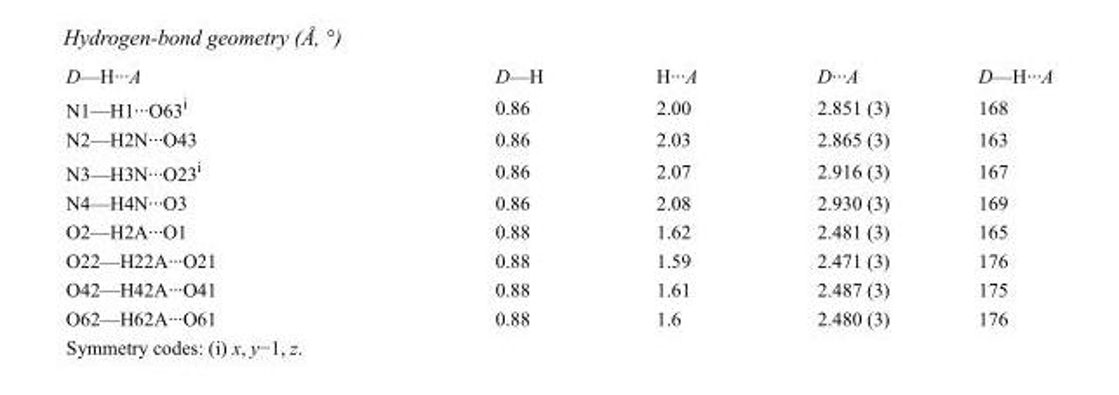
<table><tbody><tr><td>D—H···A</td><td>D—H</td><td>H···A</td><td>D···A</td><td>D—H···A</td></tr><tr><td>N1—H1···O63<sup>i</sup></td><td>0.86</td><td>2.00</td><td>2.851 (3)</td><td>168</td></tr><tr><td>N2—H2N···O43</td><td>0.86</td><td>2.03</td><td>2.865 (3)</td><td>163</td></tr><tr><td>N3—H3N···O23<sup>i</sup></td><td>0.86</td><td>2.07</td><td>2.916 (3)</td><td>167</td></tr><tr><td>N4—H4N···O3</td><td>0.86</td><td>2.08</td><td>2.930 (3)</td><td>169</td></tr><tr><td>O2—H2A···O1</td><td>0.88</td><td>1.62</td><td>2.481 (3)</td><td>165</td></tr><tr><td>O22—H22A···O21</td><td>0.88</td><td>1.59</td><td>2.471 (3)</td><td>176</td></tr><tr><td>O42—H42A···O41</td><td>0.88</td><td>1.61</td><td>2.487 (3)</td><td>175</td></tr><tr><td>O62—H62A···O61</td><td>0.88</td><td>1.6</td><td>2.480 (3)</td><td>176</td></tr></tbody></table>